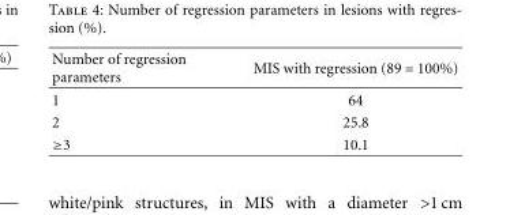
<table><thead><tr><td>Number of regression parameters</td><td>MIS with regression (89 = 100%)</td></tr></thead><tbody><tr><td>1</td><td>64</td></tr><tr><td>2</td><td>25.8</td></tr><tr><td>≥3</td><td>10.1</td></tr></tbody></table>